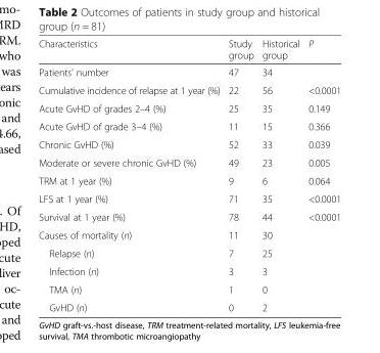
<table><thead><tr><td>Characteristics</td><td>Study group</td><td>Historical group</td><td>P</td></tr></thead><tbody><tr><td>Patients’ number</td><td>47</td><td>34</td><td></td></tr><tr><td>Cumulative incidence of relapse at 1 year (%)</td><td>22</td><td>56</td><td>&lt;0.0001</td></tr><tr><td>Acute GvHD of grades 2–4 (%)</td><td>25</td><td>35</td><td>0.149</td></tr><tr><td>Acute GvHD of grade 3–4 (%)</td><td>11</td><td>15</td><td>0.366</td></tr><tr><td>Chronic GvHD (%)</td><td>52</td><td>33</td><td>0.039</td></tr><tr><td>Moderate or severe chronic GvHD (%)</td><td>49</td><td>23</td><td>0.005</td></tr><tr><td>TRM at 1 year (%)</td><td>9</td><td>6</td><td>0.064</td></tr><tr><td>LFS at 1 year (%)</td><td>71</td><td>35</td><td>&lt;0.0001</td></tr><tr><td>Survival at 1 year (%)</td><td>78</td><td>44</td><td>&lt;0.0001</td></tr><tr><td>Causes of mortality (n)</td><td>11</td><td>30</td><td></td></tr><tr><td>Relapse (n)</td><td>7</td><td>25</td><td></td></tr><tr><td>Infection (n)</td><td>3</td><td>3</td><td></td></tr><tr><td>TMA (n)</td><td>1</td><td>0</td><td></td></tr><tr><td>GvHD (n)</td><td>0</td><td>2</td><td></td></tr></tbody></table>